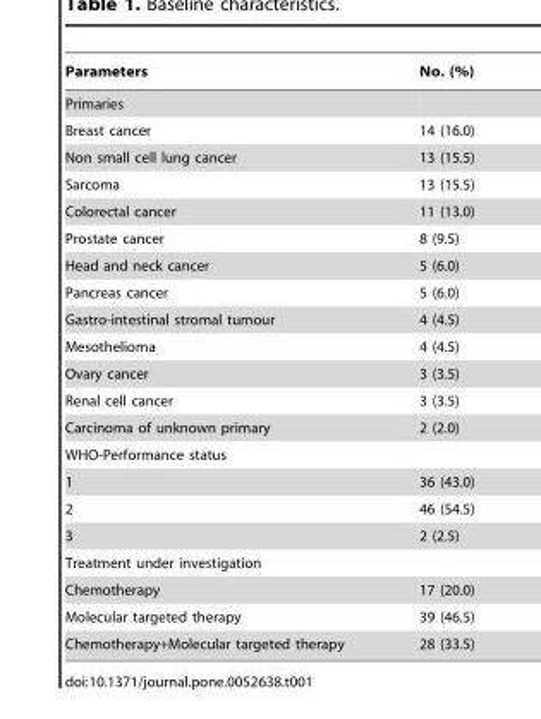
<table><thead><tr><td>Parameters</td><td>No. (%)</td></tr></thead><tbody><tr><td colspan="2">Primaries</td></tr><tr><td>Breast cancer</td><td>14 (16.0)</td></tr><tr><td>Non small cell lung cancer</td><td>13 (15.5)</td></tr><tr><td>Sarcoma</td><td>13 (15.5)</td></tr><tr><td>Colorectal cancer</td><td>11 (13.0)</td></tr><tr><td>Prostate cancer</td><td>8 (9.5)</td></tr><tr><td>Head and neck cancer</td><td>5 (6.0)</td></tr><tr><td>Pancreas cancer</td><td>5 (6.0)</td></tr><tr><td>Gastro-intestinal stromal tumour</td><td>4 (4.5)</td></tr><tr><td>Mesothelioma</td><td>4 (4.5)</td></tr><tr><td>Ovary cancer</td><td>3 (3.5)</td></tr><tr><td>Renal cell cancer</td><td>3 (3.5)</td></tr><tr><td>Carcinoma of unknown primary</td><td>2 (2.0)</td></tr><tr><td colspan="2">WHO-Performance status</td></tr><tr><td>1</td><td>36 (43.0)</td></tr><tr><td>2</td><td>46 (54.5)</td></tr><tr><td>3</td><td>2 (2.5)</td></tr><tr><td colspan="2">Treatment under investigation</td></tr><tr><td>Chemotherapy</td><td>17 (20.0)</td></tr><tr><td>Molecular targeted therapy</td><td>39 (46.5)</td></tr><tr><td>Chemotherapy+Molecular targeted therapy</td><td>28 (33.5)</td></tr></tbody></table>